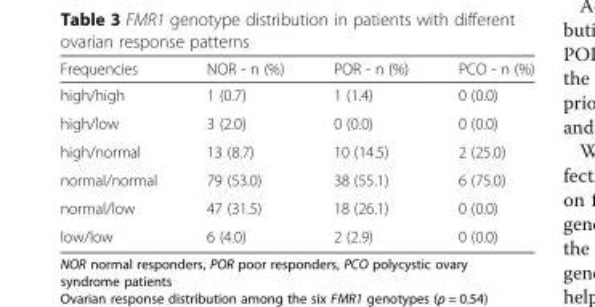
<table><thead><tr><td>Frequencies</td><td>NOR - n (%)</td><td>POR - n (%)</td><td>PCO - n (%)</td></tr></thead><tbody><tr><td>high/high</td><td>1 (0.7)</td><td>1 (1.4)</td><td>0 (0.0)</td></tr><tr><td>high/low</td><td>3 (2.0)</td><td>0 (0.0)</td><td>0 (0.0)</td></tr><tr><td>high/normal</td><td>13 (8.7)</td><td>10 (14.5)</td><td>2 (25.0)</td></tr><tr><td>normal/normal</td><td>79 (53.0)</td><td>38 (55.1)</td><td>6 (75.0)</td></tr><tr><td>normal/low</td><td>47 (31.5)</td><td>18 (26.1)</td><td>0 (0.0)</td></tr><tr><td>low/low</td><td>6 (4.0)</td><td>2 (2.9)</td><td>0 (0.0)</td></tr></tbody></table>